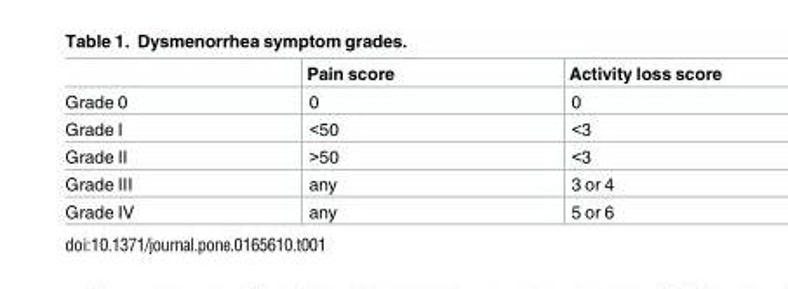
<table><thead><tr><td></td><td>Pain score</td><td>Activity loss score</td></tr></thead><tbody><tr><td>Grade 0</td><td>0</td><td>0</td></tr><tr><td>Grade I</td><td>&lt;50</td><td>&lt;3</td></tr><tr><td>Grade II</td><td>&gt;50</td><td>&lt;3</td></tr><tr><td>Grade III</td><td>any</td><td>3 or 4</td></tr><tr><td>Grade IV</td><td>any</td><td>5 or 6</td></tr></tbody></table>